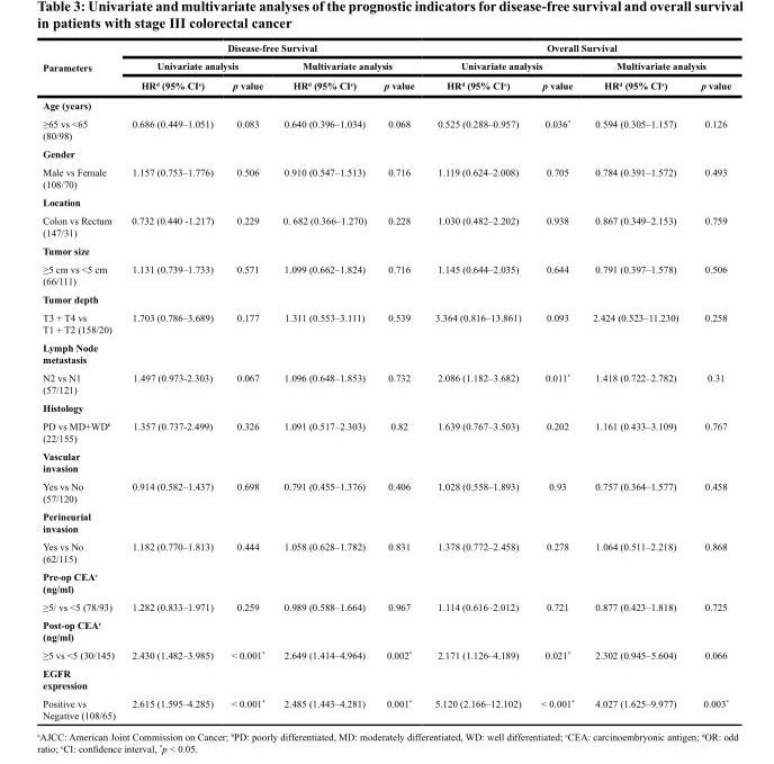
<table><thead><tr><td rowspan="3">Parameters</td><td colspan="4">Disease-free Survival</td><td colspan="4">Overall Survival</td></tr><tr><td colspan="2">Univariate analysis</td><td colspan="2">Multivariate analysis</td><td colspan="2">Univariate analysis</td><td colspan="2">Multivariate analysis</td></tr><tr><td>HR<sup>d</sup> (95% CI<sup>e</sup>)</td><td>p value</td><td>HR<sup>d</sup> (95% CI<sup>e</sup>)</td><td>p value</td><td>HR<sup>d</sup> (95% CI<sup>e</sup>)</td><td>p value</td><td>HR<sup>d</sup> (95% CI<sup>e</sup>)</td><td>p value</td></tr></thead><tbody><tr><td colspan="9">Age (years)</td></tr><tr><td>≥65 vs &lt;65 (80/98)</td><td>0.686 (0.449–1.051)</td><td>0.083</td><td>0.640 (0.396–1.034)</td><td>0.068</td><td>0.525 (0.288–0.957)</td><td>0.036*</td><td>0.594 (0.305–1.157)</td><td>0.126</td></tr><tr><td colspan="9">Gender</td></tr><tr><td>Male vs Female (108/70)</td><td>1.157 (0.753–1.776)</td><td>0.506</td><td>0.910 (0.547–1.513)</td><td>0.716</td><td>1.119 (0.624–2.008)</td><td>0.705</td><td>0.784 (0.391–1.572)</td><td>0.493</td></tr><tr><td colspan="9">Location</td></tr><tr><td>Colon vs Rectum (147/31)</td><td>0.732 (0.440 -1.217)</td><td>0.229</td><td>0. 682 (0.366–1.270)</td><td>0.228</td><td>1.030 (0.482–2.202)</td><td>0.938</td><td>0.867 (0.349–2.153)</td><td>0.759</td></tr><tr><td colspan="9">Tumor size</td></tr><tr><td>≥5 cm vs &lt;5 cm (66/111)</td><td>1.131 (0.739–1.733)</td><td>0.571</td><td>1.099 (0.662–1.824)</td><td>0.716</td><td>1.145 (0.644–2.035)</td><td>0.644</td><td>0.791 (0.397–1.578)</td><td>0.506</td></tr><tr><td colspan="9">Tumor depth</td></tr><tr><td>T3 + T4 vs T1 + T2 (158/20)</td><td>1.703 (0.786–3.689)</td><td>0.177</td><td>1.311 (0.553–3.111)</td><td>0.539</td><td>3.364 (0.816–13.861)</td><td>0.093</td><td>2.424 (0.523–11.230)</td><td>0.258</td></tr><tr><td colspan="9">Lymph Node metastasis</td></tr><tr><td>N2 vs N1 (57/121)</td><td>1.497 (0.973-2.303)</td><td>0.067</td><td>1.096 (0.648–1.853)</td><td>0.732</td><td>2.086 (1.182–3.682)</td><td>0.011*</td><td>1.418 (0.722–2.782)</td><td>0.31</td></tr><tr><td colspan="9">Histology</td></tr><tr><td>PD vs MD+WD<sup>b</sup> (22/155)</td><td>1.357 (0.737-2.499)</td><td>0.326</td><td>1.091 (0.517–2.303)</td><td>0.82</td><td>1.639 (0.767–3.503)</td><td>0.202</td><td>1.161 (0.433–3.109)</td><td>0.767</td></tr><tr><td colspan="9">Vascular invasion</td></tr><tr><td>Yes vs No (57/120)</td><td>0.914 (0.582–1.437)</td><td>0.698</td><td>0.791 (0.455–1.376)</td><td>0.406</td><td>1.028 (0.558–1.893)</td><td>0.93</td><td>0.757 (0.364–1.577)</td><td>0.458</td></tr><tr><td colspan="9">Perineurial invasion</td></tr><tr><td>Yes vs No (62/115)</td><td>1.182 (0.770–1.813)</td><td>0.444</td><td>1.058 (0.628–1.782)</td><td>0.831</td><td>1.378 (0.772–2.458)</td><td>0.278</td><td>1.064 (0.511–2.218)</td><td>0.868</td></tr><tr><td colspan="9">Pre-op CEA<sup>c</sup> (ng/ml)</td></tr><tr><td>≥5/ vs &lt;5 (78/93)</td><td>1.282 (0.833–1.971)</td><td>0.259</td><td>0.989 (0.588–1.664)</td><td>0.967</td><td>1.114 (0.616–2.012)</td><td>0.721</td><td>0.877 (0.423–1.818)</td><td>0.725</td></tr><tr><td colspan="9">Post-op CEA<sup>c</sup> (ng/ml)</td></tr><tr><td>≥5 vs &lt;5 (30/145)</td><td>2.430 (1.482–3.985)</td><td>&lt; 0.001*</td><td>2.649 (1.414–4.964)</td><td>0.002*</td><td>2.171 (1.126–4.189)</td><td>0.021*</td><td>2.302 (0.945–5.604)</td><td>0.066</td></tr><tr><td colspan="9">EGFR expression</td></tr><tr><td>Positive vs Negative (108/65)</td><td>2.615 (1.595–4.285)</td><td>&lt; 0.001*</td><td>2.485 (1.443–4.281)</td><td>0.001*</td><td>5.120 (2.166–12.102)</td><td>&lt; 0.001*</td><td>4.027 (1.625–9.977)</td><td>0.003*</td></tr></tbody></table>